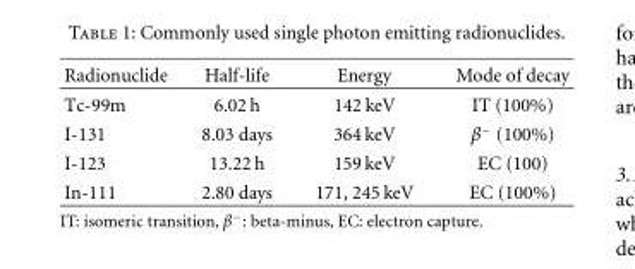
<table><thead><tr><td>Radionuclide</td><td>Half-life</td><td>Energy</td><td>Mode of decay</td></tr></thead><tbody><tr><td>Tc-99m</td><td>6.02 h</td><td>142 keV</td><td>IT (100%)</td></tr><tr><td>I-131</td><td>8.03 days</td><td>364 keV</td><td>β<sup>−</sup> (100%)</td></tr><tr><td>I-123</td><td>13.22 h</td><td>159 keV</td><td>EC (100)</td></tr><tr><td>In-111</td><td>2.80 days</td><td>171, 245 keV</td><td>EC (100%)</td></tr></tbody></table>